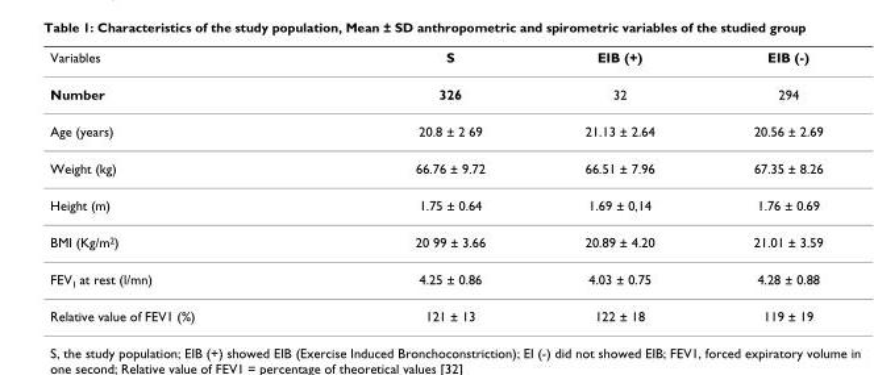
<table><thead><tr><td>Variables</td><td>S</td><td>EIB (+)</td><td>EIB (-)</td></tr></thead><tbody><tr><td>Number</td><td>326</td><td>32</td><td>294</td></tr><tr><td>Age (years)</td><td>20.8 ± 2 69</td><td>21.13 ± 2.64</td><td>20.56 ± 2.69</td></tr><tr><td>Weight (kg)</td><td>66.76 ± 9.72</td><td>66.51 ± 7.96</td><td>67.35 ± 8.26</td></tr><tr><td>Height (m)</td><td>1.75 ± 0.64</td><td>1.69 ± 0,14</td><td>1.76 ± 0.69</td></tr><tr><td>BMI (Kg/m<sup>2</sup>)</td><td>20 99 ± 3.66</td><td>20.89 ± 4.20</td><td>21.01 ± 3.59</td></tr><tr><td>FEV<sub>1</sub> at rest (l/mn)</td><td>4.25 ± 0.86</td><td>4.03 ± 0.75</td><td>4.28 ± 0.88</td></tr><tr><td>Relative value of FEV1 (%)</td><td>121 ± 13</td><td>122 ± 18</td><td>119 ± 19</td></tr></tbody></table>